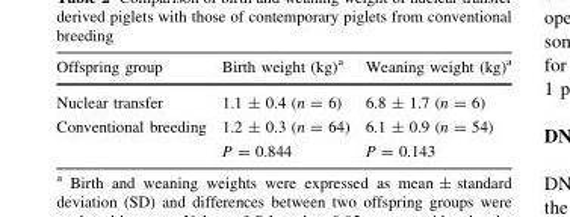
<table><thead><tr><td>Offspring group</td><td>Birth weight (kg)<sup>a</sup></td><td>Weaning weight (kg)<sup>a</sup></td></tr></thead><tbody><tr><td>Nuclear transfer</td><td>1.1 ± 0.4 (n = 6)</td><td>6.8 ± 1.7 (n = 6)</td></tr><tr><td rowspan="2">Conventional breeding</td><td>1.2 ± 0.3 (n = 64)</td><td>6.1 ± 0.9 (n = 54)</td></tr><tr><td>P = 0.844</td><td>P = 0.143</td></tr></tbody></table>